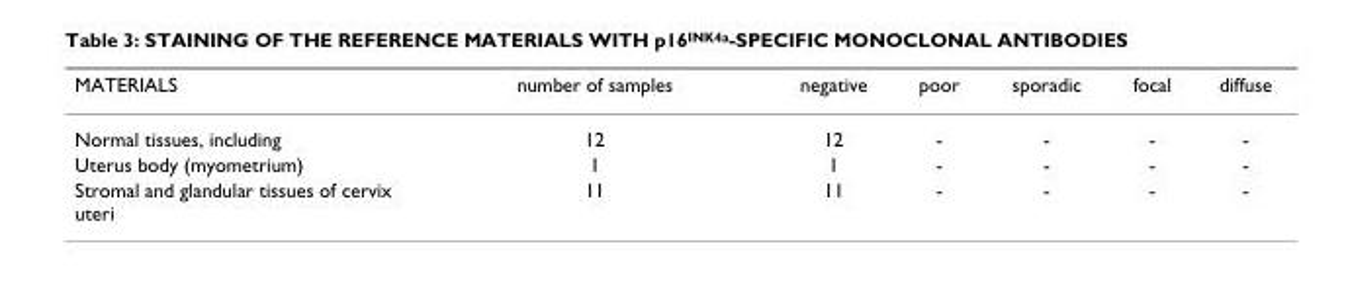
<table><thead><tr><td>MATERIALS</td><td>number of samples</td><td>negative</td><td>poor</td><td>sporadic</td><td>focal</td><td>diffuse</td></tr></thead><tbody><tr><td>Normal tissues, including</td><td>12</td><td>12</td><td>-</td><td>-</td><td>-</td><td>-</td></tr><tr><td>Uterus body (myometrium)</td><td>1</td><td>1</td><td>-</td><td>-</td><td>-</td><td>-</td></tr><tr><td>Stromal and glandular tissues of cervix uteri</td><td>11</td><td>11</td><td>-</td><td>-</td><td>-</td><td>-</td></tr></tbody></table>